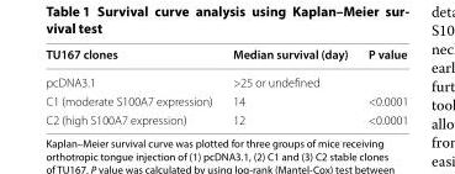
<table><thead><tr><td>TU167 clones</td><td>Median survival (day)</td><td>P value</td></tr></thead><tbody><tr><td>pcDNA3.1</td><td>&gt;25 or undefined</td><td></td></tr><tr><td>C1 (moderate S100A7 expression)</td><td>14</td><td>&lt;0.0001</td></tr><tr><td>C2 (high S100A7 expression)</td><td>12</td><td>&lt;0.0001</td></tr></tbody></table>